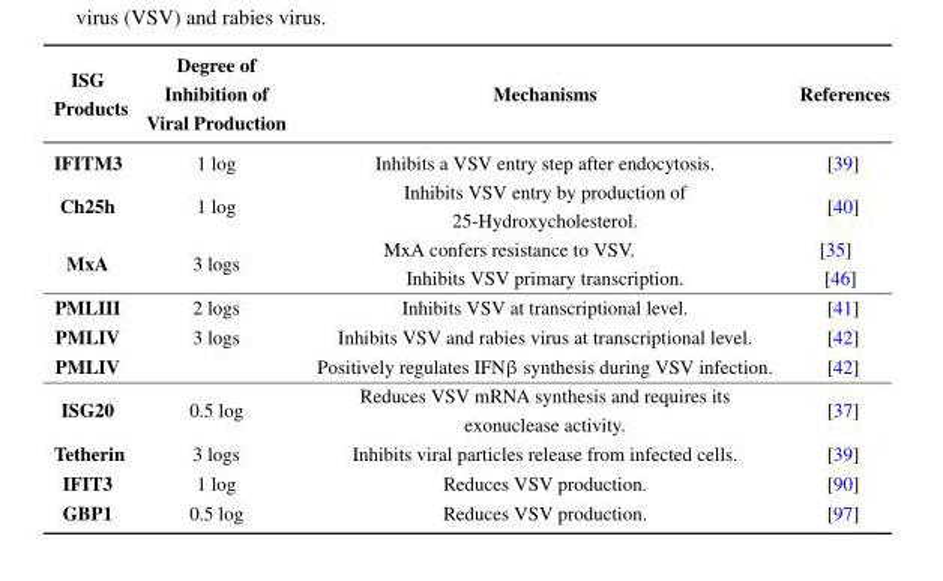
<table><thead><tr><td>ISG Products</td><td>Degree of Inhibition of Viral Production</td><td>Mechanisms</td><td>References</td></tr></thead><tbody><tr><td>IFITM3</td><td>1 log</td><td>Inhibits a VSV entry step after endocytosis.</td><td>[39]</td></tr><tr><td>Ch25h</td><td>1 log</td><td>Inhibits VSV entry by production of 25-Hydroxycholesterol.</td><td>[40]</td></tr><tr><td>MxA</td><td>3 logs</td><td>MxA confers resistance to VSV. Inhibits VSV primary transcription.</td><td>[35] [46]</td></tr><tr><td>PMLIII</td><td>2 logs</td><td>Inhibits VSV at transcriptional level.</td><td>[41]</td></tr><tr><td>PMLIV</td><td>3 logs</td><td>Inhibits VSV and rabies virus at transcriptional level.</td><td>[42]</td></tr><tr><td>PMLIV</td><td></td><td>Positively regulates IFNβ synthesis during VSV infection.</td><td>[42]</td></tr><tr><td>ISG20</td><td>0.5 log</td><td>Reduces VSV mRNA synthesis and requires its exonuclease activity.</td><td>[37]</td></tr><tr><td>Tetherin</td><td>3 logs</td><td>Inhibits viral particles release from infected cells.</td><td>[39]</td></tr><tr><td>IFIT3</td><td>1 log</td><td>Reduces VSV production.</td><td>[90]</td></tr><tr><td>GBP1</td><td>0.5 log</td><td>Reduces VSV production.</td><td>[97]</td></tr></tbody></table>